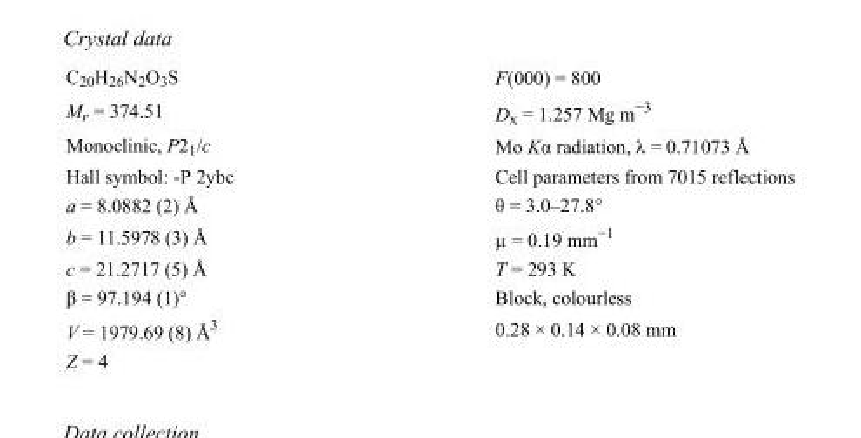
<table><tbody><tr><td>C<sub>20</sub>H<sub>26</sub>N<sub>2</sub>O<sub>3</sub>S</td><td>F(000) = 800</td></tr><tr><td>M<sub>r</sub> = 374.51</td><td>D<sub>x</sub> = 1.257 Mg m<sup>−3</sup></td></tr><tr><td>Monoclinic, P2<sub>1</sub>/c</td><td>Mo Kα radiation, λ = 0.71073 Å</td></tr><tr><td>Hall symbol: -P 2ybc</td><td>Cell parameters from 7015 reflections</td></tr><tr><td>a = 8.0882 (2) Å</td><td>θ = 3.0–27.8°</td></tr><tr><td>b = 11.5978 (3) Å</td><td>µ = 0.19 mm<sup>−1</sup></td></tr><tr><td>c = 21.2717 (5) Å</td><td>T = 293 K</td></tr><tr><td>β = 97.194 (1)°</td><td>Block, colourless</td></tr><tr><td>V = 1979.69 (8) Å<sup>3</sup></td><td>0.28 × 0.14 × 0.08 mm</td></tr><tr><td>Z = 4</td><td></td></tr></tbody></table>